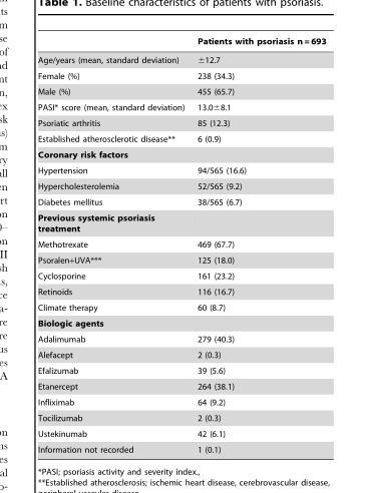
<table><thead><tr><td></td><td>Patients with psoriasis n = 693</td></tr></thead><tbody><tr><td>Age/years (mean, standard deviation)</td><td>±12.7</td></tr><tr><td>Female (%)</td><td>238 (34.3)</td></tr><tr><td>Male (%)</td><td>455 (65.7)</td></tr><tr><td>PASI* score (mean, standard deviation)</td><td>13.0±8.1</td></tr><tr><td>Psoriatic arthritis</td><td>85 (12.3)</td></tr><tr><td>Established atherosclerotic disease**</td><td>6 (0.9)</td></tr><tr><td colspan="2">Coronary risk factors</td></tr><tr><td>Hypertension</td><td>94/565 (16.6)</td></tr><tr><td>Hypercholesterolemia</td><td>52/565 (9.2)</td></tr><tr><td>Diabetes mellitus</td><td>38/565 (6.7)</td></tr><tr><td colspan="2">Previous systemic psoriasis treatment</td></tr><tr><td>Methotrexate</td><td>469 (67.7)</td></tr><tr><td>Psoralen+UVA***</td><td>125 (18.0)</td></tr><tr><td>Cyclosporine</td><td>161 (23.2)</td></tr><tr><td>Retinoids</td><td>116 (16.7)</td></tr><tr><td>Climate therapy</td><td>60 (8.7)</td></tr><tr><td colspan="2">Biologic agents</td></tr><tr><td>Adalimumab</td><td>279 (40.3)</td></tr><tr><td>Alefacept</td><td>2 (0.3)</td></tr><tr><td>Efalizumab</td><td>39 (5.6)</td></tr><tr><td>Etanercept</td><td>264 (38.1)</td></tr><tr><td>Infliximab</td><td>64 (9.2)</td></tr><tr><td>Tocilizumab</td><td>2 (0.3)</td></tr><tr><td>Ustekinumab</td><td>42 (6.1)</td></tr><tr><td>Information not recorded</td><td>1 (0.1)</td></tr></tbody></table>